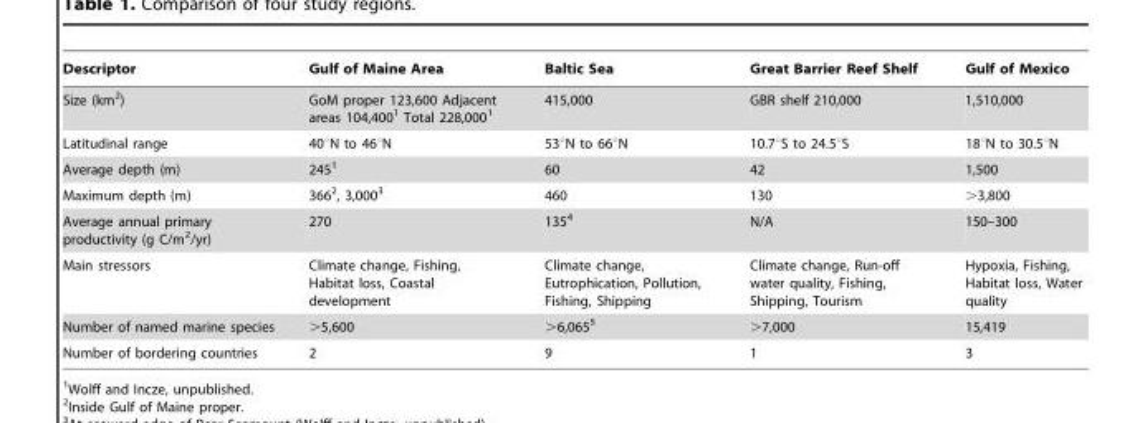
<table><thead><tr><td>Descriptor</td><td>Gulf of Maine Area</td><td>Baltic Sea</td><td>Great Barrier Reef Shelf</td><td>Gulf of Mexico</td></tr></thead><tbody><tr><td>Size (km<sup>2</sup>)</td><td>GoM proper 123,600 Adjacent areas 104,400<sup>1</sup> Total 228,000<sup>1</sup></td><td>415,000</td><td>GBR shelf 210,000</td><td>1,510,000</td></tr><tr><td>Latitudinal range</td><td>40°N to 46°N</td><td>53°N to 66°N</td><td>10.7°S to 24.5°S</td><td>18°N to 30.5°N</td></tr><tr><td>Average depth (m)</td><td>245<sup>1</sup></td><td>60</td><td>42</td><td>1,500</td></tr><tr><td>Maximum depth (m)</td><td>366<sup>2</sup>, 3,000<sup>3</sup></td><td>460</td><td>130</td><td>&gt;3,800</td></tr><tr><td>Average annual primary productivity (g C/m<sup>2</sup>/yr)</td><td>270</td><td>135<sup>4</sup></td><td>N/A</td><td>150–300</td></tr><tr><td>Main stressors</td><td>Climate change, Fishing, Habitat loss, Coastal development</td><td>Climate change, Eutrophication, Pollution, Fishing, Shipping</td><td>Climate change, Run-off water quality, Fishing, Shipping, Tourism</td><td>Hypoxia, Fishing, Habitat loss, Water quality</td></tr><tr><td>Number of named marine species</td><td>&gt;5,600</td><td>&gt;6,065<sup>5</sup></td><td>&gt;7,000</td><td>15,419</td></tr><tr><td>Number of bordering countries</td><td>2</td><td>9</td><td>1</td><td>3</td></tr></tbody></table>